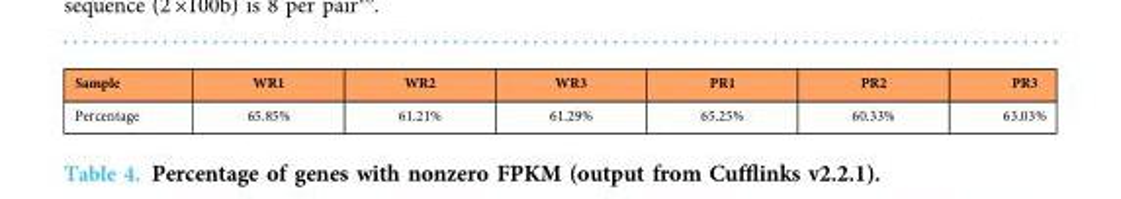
<table><thead><tr><td>Sample</td><td>WR1</td><td>WR2</td><td>WR3</td><td>PR1</td><td>PR2</td><td>PR3</td></tr></thead><tbody><tr><td>Percentage</td><td>65.85%</td><td>61.21%</td><td>61.29%</td><td>65.25%</td><td>60.33%</td><td>63.03%</td></tr></tbody></table>